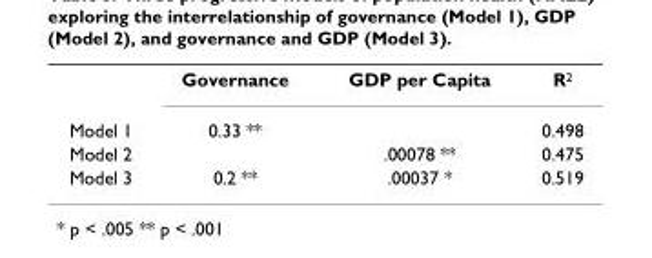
<table><thead><tr><td></td><td>Governance</td><td>GDP per Capita</td><td>R<sup>2</sup></td></tr></thead><tbody><tr><td>Model 1</td><td>0.33 **</td><td></td><td>0.498</td></tr><tr><td>Model 2</td><td></td><td>.00078 **</td><td>0.475</td></tr><tr><td>Model 3</td><td>0.2 **</td><td>.00037 *</td><td>0.519</td></tr></tbody></table>